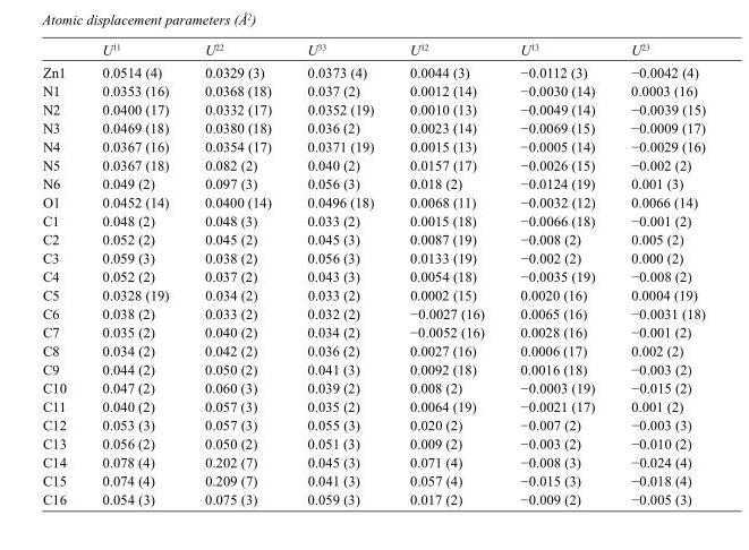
<table><thead><tr><td></td><td>U<sup>11</sup></td><td>U<sup>22</sup></td><td>U<sup>33</sup></td><td>U<sup>12</sup></td><td>U<sup>13</sup></td><td>U<sup>23</sup></td></tr></thead><tbody><tr><td>Zn1</td><td>0.0514 (4)</td><td>0.0329 (3)</td><td>0.0373 (4)</td><td>0.0044 (3)</td><td>−0.0112 (3)</td><td>−0.0042 (4)</td></tr><tr><td>N1</td><td>0.0353 (16)</td><td>0.0368 (18)</td><td>0.037 (2)</td><td>0.0012 (14)</td><td>−0.0030 (14)</td><td>0.0003 (16)</td></tr><tr><td>N2</td><td>0.0400 (17)</td><td>0.0332 (17)</td><td>0.0352 (19)</td><td>0.0010 (13)</td><td>−0.0049 (14)</td><td>−0.0039 (15)</td></tr><tr><td>N3</td><td>0.0469 (18)</td><td>0.0380 (18)</td><td>0.036 (2)</td><td>0.0023 (14)</td><td>−0.0069 (15)</td><td>−0.0009 (17)</td></tr><tr><td>N4</td><td>0.0367 (16)</td><td>0.0354 (17)</td><td>0.0371 (19)</td><td>0.0015 (13)</td><td>−0.0005 (14)</td><td>−0.0029 (16)</td></tr><tr><td>N5</td><td>0.0367 (18)</td><td>0.082 (2)</td><td>0.040 (2)</td><td>0.0157 (17)</td><td>−0.0026 (15)</td><td>−0.002 (2)</td></tr><tr><td>N6</td><td>0.049 (2)</td><td>0.097 (3)</td><td>0.056 (3)</td><td>0.018 (2)</td><td>−0.0124 (19)</td><td>0.001 (3)</td></tr><tr><td>O1</td><td>0.0452 (14)</td><td>0.0400 (14)</td><td>0.0496 (18)</td><td>0.0068 (11)</td><td>−0.0032 (12)</td><td>0.0066 (14)</td></tr><tr><td>C1</td><td>0.048 (2)</td><td>0.048 (3)</td><td>0.033 (2)</td><td>0.0015 (18)</td><td>−0.0066 (18)</td><td>−0.001 (2)</td></tr><tr><td>C2</td><td>0.052 (2)</td><td>0.045 (2)</td><td>0.045 (3)</td><td>0.0087 (19)</td><td>−0.008 (2)</td><td>0.005 (2)</td></tr><tr><td>C3</td><td>0.059 (3)</td><td>0.038 (2)</td><td>0.056 (3)</td><td>0.0133 (19)</td><td>−0.002 (2)</td><td>0.000 (2)</td></tr><tr><td>C4</td><td>0.052 (2)</td><td>0.037 (2)</td><td>0.043 (3)</td><td>0.0054 (18)</td><td>−0.0035 (19)</td><td>−0.008 (2)</td></tr><tr><td>C5</td><td>0.0328 (19)</td><td>0.034 (2)</td><td>0.033 (2)</td><td>0.0002 (15)</td><td>0.0020 (16)</td><td>0.0004 (19)</td></tr><tr><td>C6</td><td>0.038 (2)</td><td>0.033 (2)</td><td>0.032 (2)</td><td>−0.0027 (16)</td><td>0.0065 (16)</td><td>−0.0031 (18)</td></tr><tr><td>C7</td><td>0.035 (2)</td><td>0.040 (2)</td><td>0.034 (2)</td><td>−0.0052 (16)</td><td>0.0028 (16)</td><td>−0.001 (2)</td></tr><tr><td>C8</td><td>0.034 (2)</td><td>0.042 (2)</td><td>0.036 (2)</td><td>0.0027 (16)</td><td>0.0006 (17)</td><td>0.002 (2)</td></tr><tr><td>C9</td><td>0.044 (2)</td><td>0.050 (2)</td><td>0.041 (3)</td><td>0.0092 (18)</td><td>0.0016 (18)</td><td>−0.003 (2)</td></tr><tr><td>C10</td><td>0.047 (2)</td><td>0.060 (3)</td><td>0.039 (2)</td><td>0.008 (2)</td><td>−0.0003 (19)</td><td>−0.015 (2)</td></tr><tr><td>C11</td><td>0.040 (2)</td><td>0.057 (3)</td><td>0.035 (2)</td><td>0.0064 (19)</td><td>−0.0021 (17)</td><td>0.001 (2)</td></tr><tr><td>C12</td><td>0.053 (3)</td><td>0.057 (3)</td><td>0.055 (3)</td><td>0.020 (2)</td><td>−0.007 (2)</td><td>−0.003 (3)</td></tr><tr><td>C13</td><td>0.056 (2)</td><td>0.050 (2)</td><td>0.051 (3)</td><td>0.009 (2)</td><td>−0.003 (2)</td><td>−0.010 (2)</td></tr><tr><td>C14</td><td>0.078 (4)</td><td>0.202 (7)</td><td>0.045 (3)</td><td>0.071 (4)</td><td>−0.008 (3)</td><td>−0.024 (4)</td></tr><tr><td>C15</td><td>0.074 (4)</td><td>0.209 (7)</td><td>0.041 (3)</td><td>0.057 (4)</td><td>−0.015 (3)</td><td>−0.018 (4)</td></tr><tr><td>C16</td><td>0.054 (3)</td><td>0.075 (3)</td><td>0.059 (3)</td><td>0.017 (2)</td><td>−0.009 (2)</td><td>−0.005 (3)</td></tr></tbody></table>